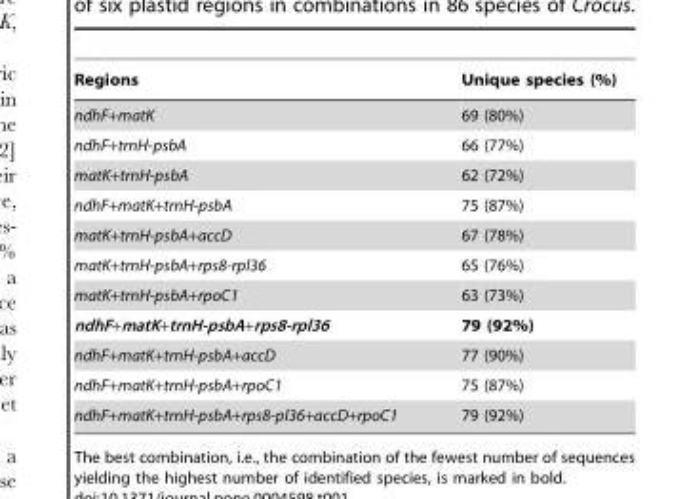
<table><thead><tr><td>Regions</td><td>Unique species (%)</td></tr></thead><tbody><tr><td>ndhF+matK</td><td>69 (80%)</td></tr><tr><td>ndhF+trnH-psbA</td><td>66 (77%)</td></tr><tr><td>matK+trnH-psbA</td><td>62 (72%)</td></tr><tr><td>ndhF+matK+trnH-psbA</td><td>75 (87%)</td></tr><tr><td>matK+trnH-psbA+accD</td><td>67 (78%)</td></tr><tr><td>matK+trnH-psbA+rps8-rpl36</td><td>65 (76%)</td></tr><tr><td>matK+trnH-psbA+rpoC1</td><td>63 (73%)</td></tr><tr><td>ndhF+matK+trnH-psbA+rps8-rpl36</td><td>79 (92%)</td></tr><tr><td>ndhF+matK+trnH-psbA+accD</td><td>77 (90%)</td></tr><tr><td>ndhF+matK+trnH-psbA+rpoC1</td><td>75 (87%)</td></tr><tr><td>ndhF+matK+trnH-psbA+rps8-pl36+accD+rpoC1</td><td>79 (92%)</td></tr></tbody></table>